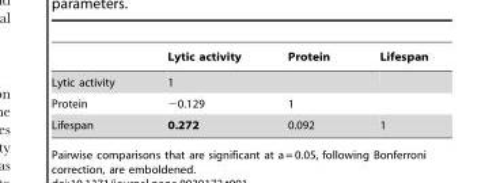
<table><thead><tr><td></td><td>Lytic activity</td><td>Protein</td><td>Lifespan</td></tr></thead><tbody><tr><td>Lytic activity</td><td>1</td><td></td><td></td></tr><tr><td>Protein</td><td>−0.129</td><td>1</td><td></td></tr><tr><td>Lifespan</td><td>0.272</td><td>0.092</td><td>1</td></tr></tbody></table>